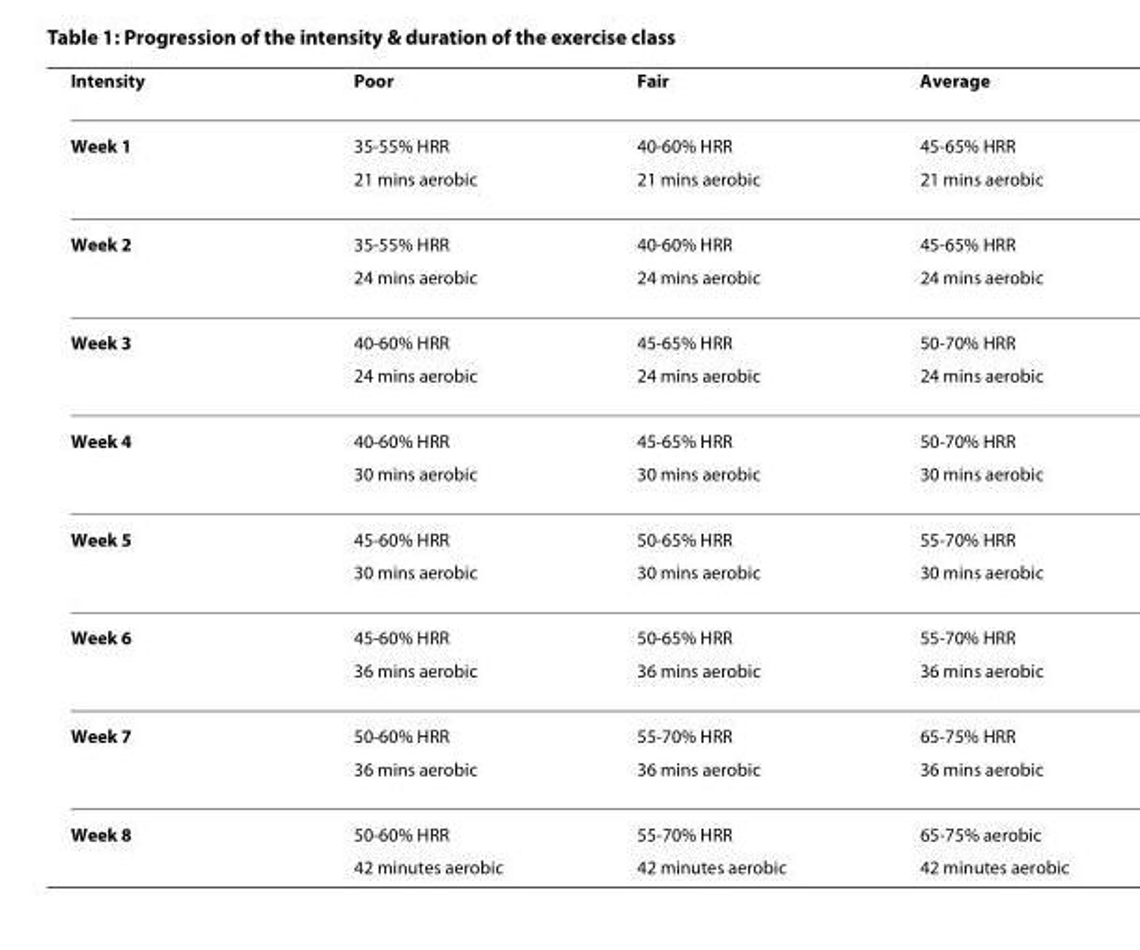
<table><thead><tr><td>Intensity</td><td>Poor</td><td>Fair</td><td>Average</td></tr></thead><tbody><tr><td rowspan="2">Week 1</td><td>35-55% HRR</td><td>40-60% HRR</td><td>45-65% HRR</td></tr><tr><td>21 mins aerobic</td><td>21 mins aerobic</td><td>21 mins aerobic</td></tr><tr><td rowspan="2">Week 2</td><td>35-55% HRR</td><td>40-60% HRR</td><td>45-65% HRR</td></tr><tr><td>24 mins aerobic</td><td>24 mins aerobic</td><td>24 mins aerobic</td></tr><tr><td rowspan="2">Week 3</td><td>40-60% HRR</td><td>45-65% HRR</td><td>50-70% HRR</td></tr><tr><td>24 mins aerobic</td><td>24 mins aerobic</td><td>24 mins aerobic</td></tr><tr><td rowspan="2">Week 4</td><td>40-60% HRR</td><td>45-65% HRR</td><td>50-70% HRR</td></tr><tr><td>30 mins aerobic</td><td>30 mins aerobic</td><td>30 mins aerobic</td></tr><tr><td rowspan="2">Week 5</td><td>45-60% HRR</td><td>50-65% HRR</td><td>55-70% HRR</td></tr><tr><td>30 mins aerobic</td><td>30 mins aerobic</td><td>30 mins aerobic</td></tr><tr><td rowspan="2">Week 6</td><td>45-60% HRR</td><td>50-65% HRR</td><td>55-70% HRR</td></tr><tr><td>36 mins aerobic</td><td>36 mins aerobic</td><td>36 mins aerobic</td></tr><tr><td rowspan="2">Week 7</td><td>50-60% HRR</td><td>55-70% HRR</td><td>65-75% HRR</td></tr><tr><td>36 mins aerobic</td><td>36 mins aerobic</td><td>36 mins aerobic</td></tr><tr><td rowspan="2">Week 8</td><td>50-60% HRR</td><td>55-70% HRR</td><td>65-75% aerobic</td></tr><tr><td>42 minutes aerobic</td><td>42 minutes aerobic</td><td>42 minutes aerobic</td></tr></tbody></table>